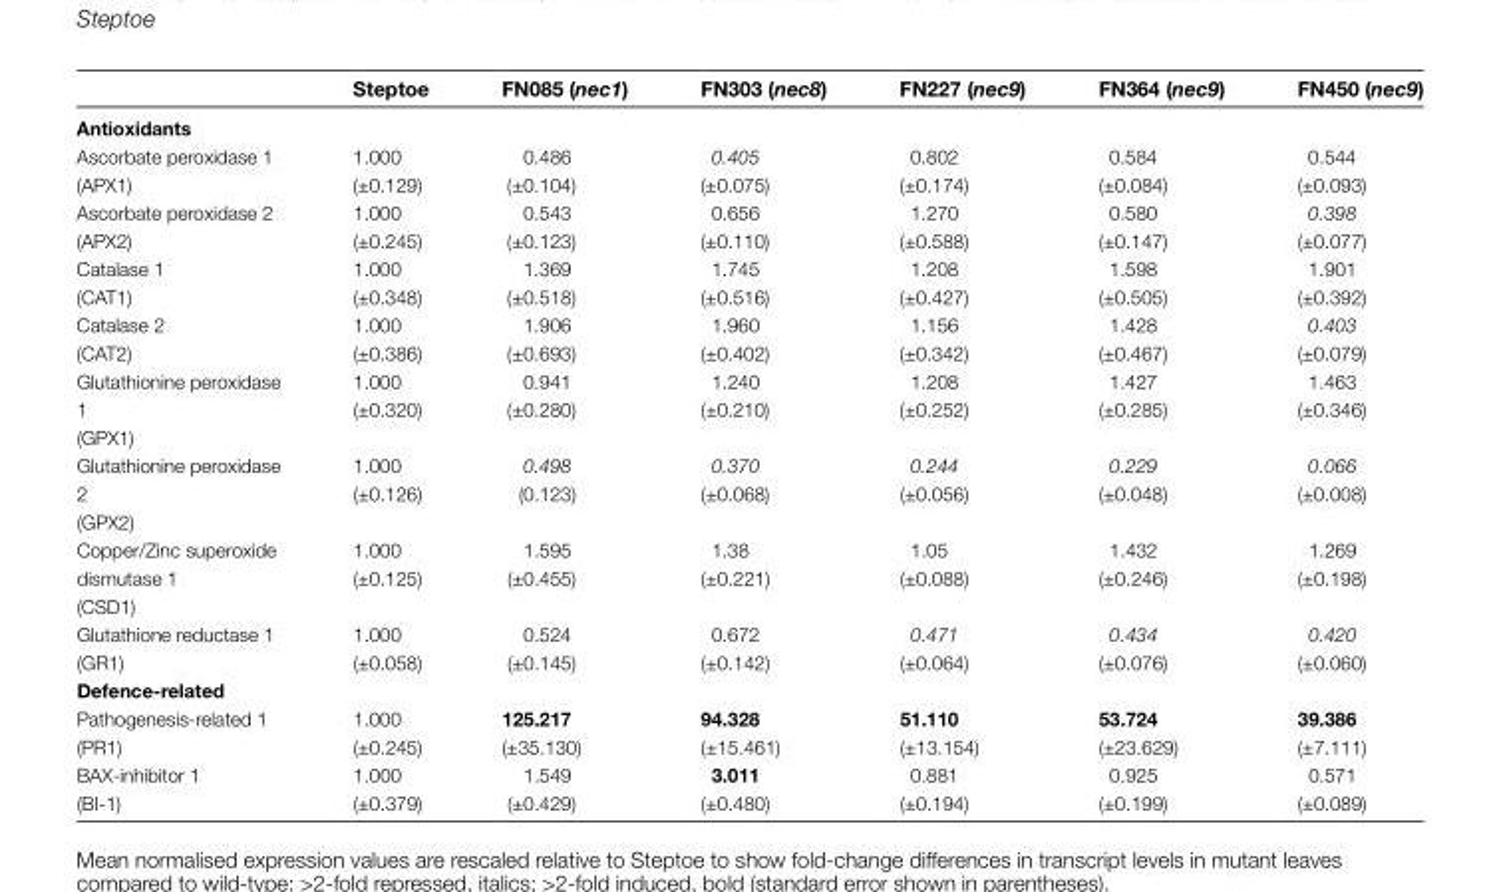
<table><thead><tr><td></td><td>Steptoe</td><td>FN085 (nec1)</td><td>FN303 (nec8)</td><td>FN227 (nec9)</td><td>FN364 (nec9)</td><td>FN450 (nec9)</td></tr></thead><tbody><tr><td colspan="7">Antioxidants</td></tr><tr><td>Ascorbate peroxidase 1 (APX1)</td><td>1.000 (±0.129)</td><td>0.486 (±0.104)</td><td>0.405 (±0.075)</td><td>0.802 (±0.174)</td><td>0.584 (±0.084)</td><td>0.544 (±0.093)</td></tr><tr><td>Ascorbate peroxidase 2 (APX2)</td><td>1.000 (±0.245)</td><td>0.543 (±0.123)</td><td>0.656 (±0.110)</td><td>1.270 (±0.588)</td><td>0.580 (±0.147)</td><td>0.398 (±0.077)</td></tr><tr><td>Catalase 1 (CAT1)</td><td>1.000 (±0.348)</td><td>1.369 (±0.518)</td><td>1.745 (±0.516)</td><td>1.208 (±0.427)</td><td>1.598 (±0.505)</td><td>1.901 (±0.392)</td></tr><tr><td>Catalase 2 (CAT2)</td><td>1.000 (±0.386)</td><td>1.906 (±0.693)</td><td>1.960 (±0.402)</td><td>1.156 (±0.342)</td><td>1.428 (±0.467)</td><td>0.403 (±0.079)</td></tr><tr><td>Glutathionine peroxidase 1 (GPX1)</td><td>1.000 (±0.320)</td><td>0.941 (±0.280)</td><td>1.240 (±0.210)</td><td>1.208 (±0.252)</td><td>1.427 (±0.285)</td><td>1.463 (±0.346)</td></tr><tr><td>Glutathionine peroxidase 2 (GPX2)</td><td>1.000 (±0.126)</td><td>0.498 (0.123)</td><td>0.370 (±0.068)</td><td>0.244 (±0.056)</td><td>0.229 (±0.048)</td><td>0.066 (±0.008)</td></tr><tr><td>Copper/Zinc superoxide dismutase 1 (CSD1)</td><td>1.000 (±0.125)</td><td>1.595 (±0.455)</td><td>1.38 (±0.221)</td><td>1.05 (±0.088)</td><td>1.432 (±0.246)</td><td>1.269 (±0.198)</td></tr><tr><td>Glutathione reductase 1 (GR1)</td><td>1.000 (±0.058)</td><td>0.524 (±0.145)</td><td>0.672 (±0.142)</td><td>0.471 (±0.064)</td><td>0.434 (±0.076)</td><td>0.420 (±0.060)</td></tr><tr><td colspan="7">Defence-related</td></tr><tr><td>Pathogenesis-related 1 (PR1)</td><td>1.000 (±0.245)</td><td>125.217 (±35.130)</td><td>94.328 (±15.461)</td><td>51.110 (±13.154)</td><td>53.724 (±23.629)</td><td>39.386 (±7.111)</td></tr><tr><td>BAX-inhibitor 1 (BI-1)</td><td>1.000 (±0.379)</td><td>1.549 (±0.429)</td><td>3.011 (±0.480)</td><td>0.881 (±0.194)</td><td>0.925 (±0.199)</td><td>0.571 (±0.089)</td></tr></tbody></table>